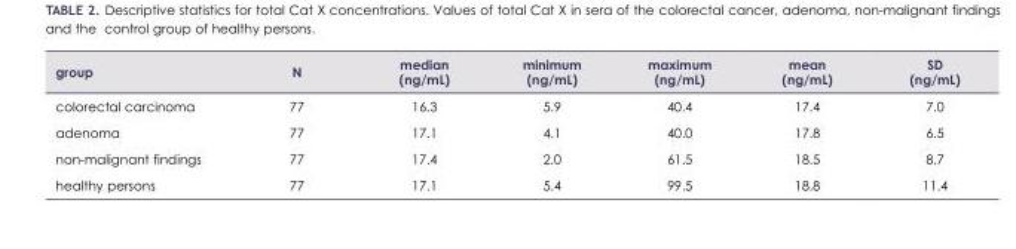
<table><thead><tr><td>group</td><td>N</td><td>median (ng/mL)</td><td>minimum (ng/mL)</td><td>maximum (ng/mL)</td><td>mean (ng/mL)</td><td>SD (ng/mL)</td></tr></thead><tbody><tr><td>colorectal carcinoma</td><td>77</td><td>16.3</td><td>5.9</td><td>40.4</td><td>17.4</td><td>7.0</td></tr><tr><td>adenoma</td><td>77</td><td>17.1</td><td>4.1</td><td>40.0</td><td>17.8</td><td>6.5</td></tr><tr><td>non-malignant findings</td><td>77</td><td>17.4</td><td>2.0</td><td>61.5</td><td>18.5</td><td>8.7</td></tr><tr><td>healthy persons</td><td>77</td><td>17.1</td><td>5.4</td><td>99.5</td><td>18.8</td><td>11.4</td></tr></tbody></table>